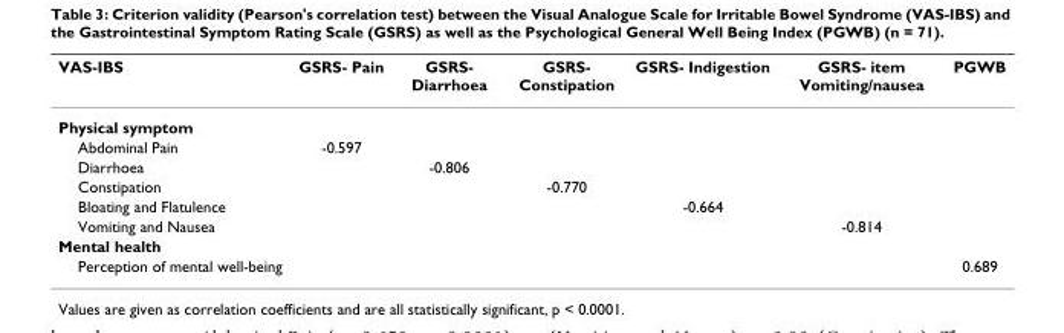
<table><thead><tr><td>VAS-IBS</td><td>GSRS- Pain</td><td>GSRS- Diarrhoea</td><td>GSRS- Constipation</td><td>GSRS- Indigestion</td><td>GSRS- item Vomiting/nausea</td><td>PGWB</td></tr></thead><tbody><tr><td colspan="7">Physical symptom</td></tr><tr><td>Abdominal Pain</td><td>-0.597</td><td></td><td></td><td></td><td></td><td></td></tr><tr><td>Diarrhoea</td><td></td><td>-0.806</td><td></td><td></td><td></td><td></td></tr><tr><td>Constipation</td><td></td><td></td><td>-0.770</td><td></td><td></td><td></td></tr><tr><td>Bloating and Flatulence</td><td></td><td></td><td></td><td>-0.664</td><td></td><td></td></tr><tr><td>Vomiting and Nausea</td><td></td><td></td><td></td><td></td><td>-0.814</td><td></td></tr><tr><td colspan="7">Mental health</td></tr><tr><td>Perception of mental well-being</td><td></td><td></td><td></td><td></td><td></td><td>0.689</td></tr></tbody></table>